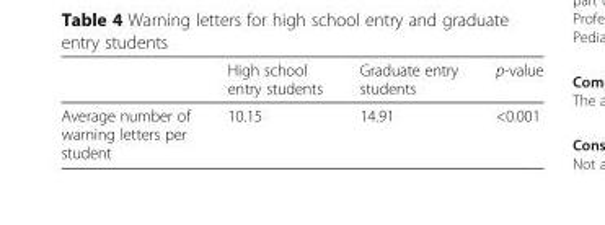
<table><thead><tr><td></td><td>High school entry students</td><td>Graduate entry students</td><td>p-value</td></tr></thead><tbody><tr><td>Average number of warning letters per student</td><td>10.15</td><td>14.91</td><td>&lt;0.001</td></tr></tbody></table>